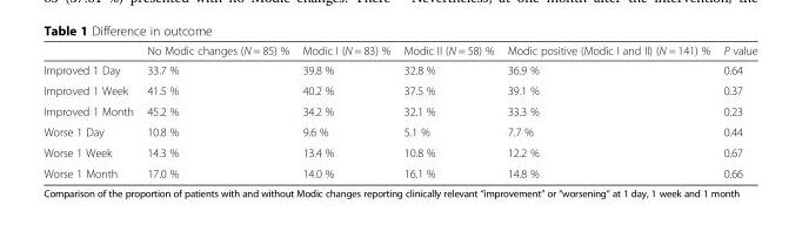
<table><thead><tr><td></td><td>No Modic changes (N = 85) %</td><td>Modic I (N = 83) %</td><td>Modic II (N = 58) %</td><td>Modic positive (Modic I and II) (N = 141) %</td><td>P value</td></tr></thead><tbody><tr><td>Improved 1 Day</td><td>33.7 %</td><td>39.8 %</td><td>32.8 %</td><td>36.9 %</td><td>0.64</td></tr><tr><td>Improved 1 Week</td><td>41.5 %</td><td>40.2 %</td><td>37.5 %</td><td>39.1 %</td><td>0.37</td></tr><tr><td>Improved 1 Month</td><td>45.2 %</td><td>34.2 %</td><td>32.1 %</td><td>33.3 %</td><td>0.23</td></tr><tr><td>Worse 1 Day</td><td>10.8 %</td><td>9.6 %</td><td>5.1 %</td><td>7.7 %</td><td>0.44</td></tr><tr><td>Worse 1 Week</td><td>14.3 %</td><td>13.4 %</td><td>10.8 %</td><td>12.2 %</td><td>0.67</td></tr><tr><td>Worse 1 Month</td><td>17.0 %</td><td>14.0 %</td><td>16.1 %</td><td>14.8 %</td><td>0.66</td></tr></tbody></table>